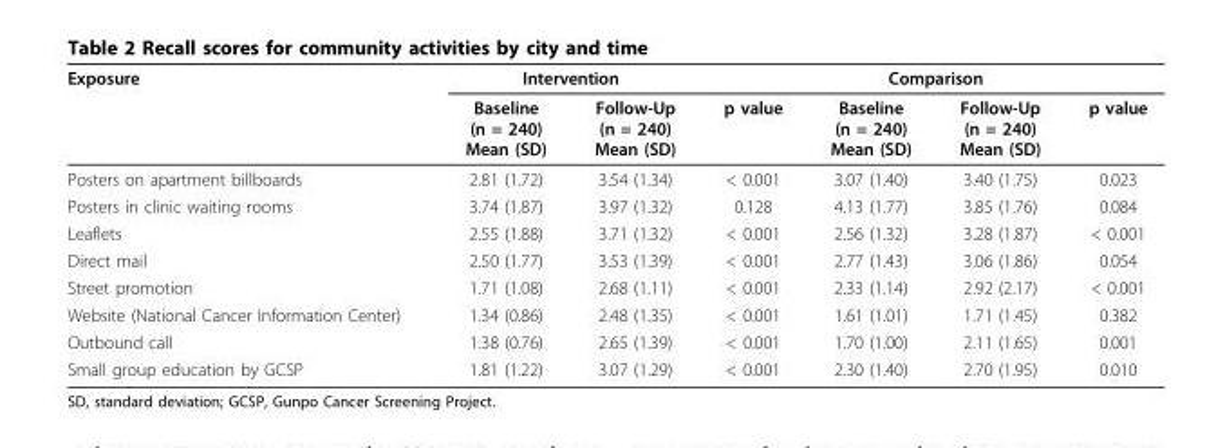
<table><thead><tr><td rowspan="2">Exposure</td><td colspan="2">Intervention</td><td rowspan="2">p value</td><td colspan="2">Comparison</td><td rowspan="2">p value</td></tr><tr><td>Baseline (n = 240) Mean (SD)</td><td>Follow-Up (n = 240) Mean (SD)</td><td>Baseline (n = 240) Mean (SD)</td><td>Follow-Up (n = 240) Mean (SD)</td></tr></thead><tbody><tr><td>Posters on apartment billboards</td><td>2.81 (1.72)</td><td>3.54 (1.34)</td><td>&lt; 0.001</td><td>3.07 (1.40)</td><td>3.40 (1.75)</td><td>0.023</td></tr><tr><td>Posters in clinic waiting rooms</td><td>3.74 (1.87)</td><td>3.97 (1.32)</td><td>0.128</td><td>4.13 (1.77)</td><td>3.85 (1.76)</td><td>0.084</td></tr><tr><td>Leaflets</td><td>2.55 (1.88)</td><td>3.71 (1.32)</td><td>&lt; 0.001</td><td>2.56 (1.32)</td><td>3.28 (1.87)</td><td>&lt; 0.001</td></tr><tr><td>Direct mail</td><td>2.50 (1.77)</td><td>3.53 (1.39)</td><td>&lt; 0.001</td><td>2.77 (1.43)</td><td>3.06 (1.86)</td><td>0.054</td></tr><tr><td>Street promotion</td><td>1.71 (1.08)</td><td>2.68 (1.11)</td><td>&lt; 0.001</td><td>2.33 (1.14)</td><td>2.92 (2.17)</td><td>&lt; 0.001</td></tr><tr><td>Website (National Cancer Information Center)</td><td>1.34 (0.86)</td><td>2.48 (1.35)</td><td>&lt; 0.001</td><td>1.61 (1.01)</td><td>1.71 (1.45)</td><td>0.382</td></tr><tr><td>Outbound call</td><td>1.38 (0.76)</td><td>2.65 (1.39)</td><td>&lt; 0.001</td><td>1.70 (1.00)</td><td>2.11 (1.65)</td><td>0.001</td></tr><tr><td>Small group education by GCSP</td><td>1.81 (1.22)</td><td>3.07 (1.29)</td><td>&lt; 0.001</td><td>2.30 (1.40)</td><td>2.70 (1.95)</td><td>0.010</td></tr></tbody></table>